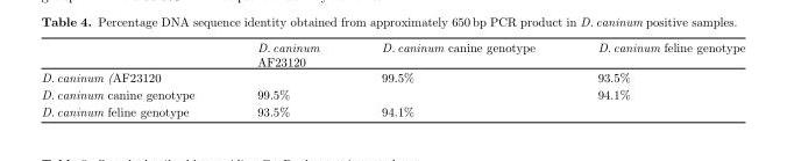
<table><thead><tr><td></td><td>D. caninum AF23120</td><td>D. caninum canine genotype</td><td>D. caninum feline genotype</td></tr></thead><tbody><tr><td>D. caninum (AF23120</td><td></td><td>99.5%</td><td>93.5%</td></tr><tr><td>D. caninum canine genotype</td><td>99.5%</td><td></td><td>94.1%</td></tr><tr><td>D. caninum feline genotype</td><td>93.5%</td><td>94.1%</td><td></td></tr></tbody></table>